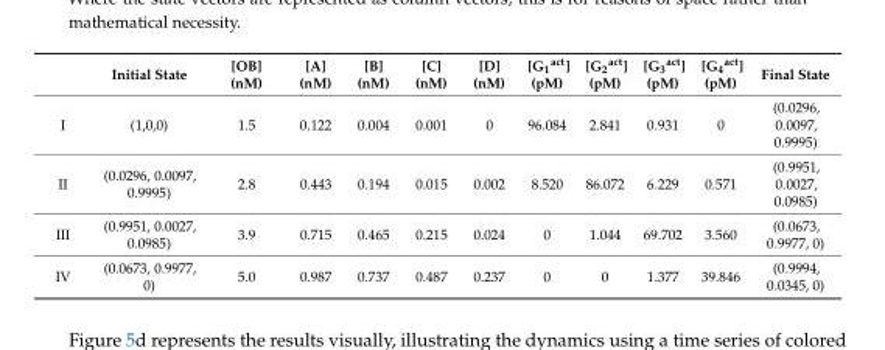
<table><thead><tr><td></td><td>Initial State</td><td>[OB] (nM)</td><td>[A] (nM)</td><td>[B] (nM)</td><td>[C] (nM)</td><td>[D] (nM)</td><td>[G<sub>1</sub><sup>act</sup>] (pM)</td><td>[G<sub>2</sub><sup>act</sup>] (pM)</td><td>[G<sub>3</sub><sup>act</sup>] (pM)</td><td>[G<sub>4</sub><sup>act</sup>] (pM)</td><td>Final State</td></tr></thead><tbody><tr><td>I</td><td>(1,0,0)</td><td>1.5</td><td>0.122</td><td>0.004</td><td>0.001</td><td>0</td><td>96.084</td><td>2.841</td><td>0.931</td><td>0</td><td>(0.0296, 0.0097, 0.9995)</td></tr><tr><td>II</td><td>(0.0296, 0.0097, 0.9995)</td><td>2.8</td><td>0.443</td><td>0.194</td><td>0.015</td><td>0.002</td><td>8.520</td><td>86.072</td><td>6.229</td><td>0.571</td><td>(0.9951, 0.0027, 0.0985)</td></tr><tr><td>III</td><td>(0.9951, 0.0027, 0.0985)</td><td>3.9</td><td>0.715</td><td>0.465</td><td>0.215</td><td>0.024</td><td>0</td><td>1.044</td><td>69.702</td><td>3.560</td><td>(0.0673, 0.9977, 0)</td></tr><tr><td>IV</td><td>(0.0673, 0.9977, 0)</td><td>5.0</td><td>0.987</td><td>0.737</td><td>0.487</td><td>0.237</td><td>0</td><td>0</td><td>1.377</td><td>39.846</td><td>(0.9994, 0.0345, 0)</td></tr></tbody></table>